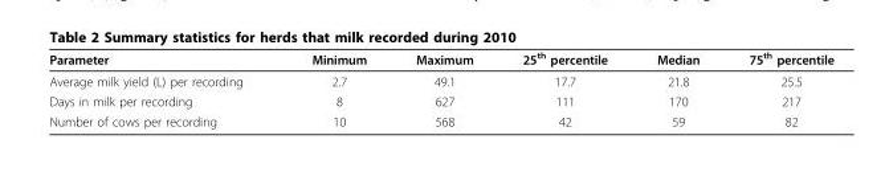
<table><thead><tr><td>Parameter</td><td>Minimum</td><td>Maximum</td><td>25<sup>th</sup> percentile</td><td>Median</td><td>75<sup>th</sup> percentile</td></tr></thead><tbody><tr><td>Average milk yield (L) per recording</td><td>2.7</td><td>49.1</td><td>17.7</td><td>21.8</td><td>25.5</td></tr><tr><td>Days in milk per recording</td><td>8</td><td>627</td><td>111</td><td>170</td><td>217</td></tr><tr><td>Number of cows per recording</td><td>10</td><td>568</td><td>42</td><td>59</td><td>82</td></tr></tbody></table>